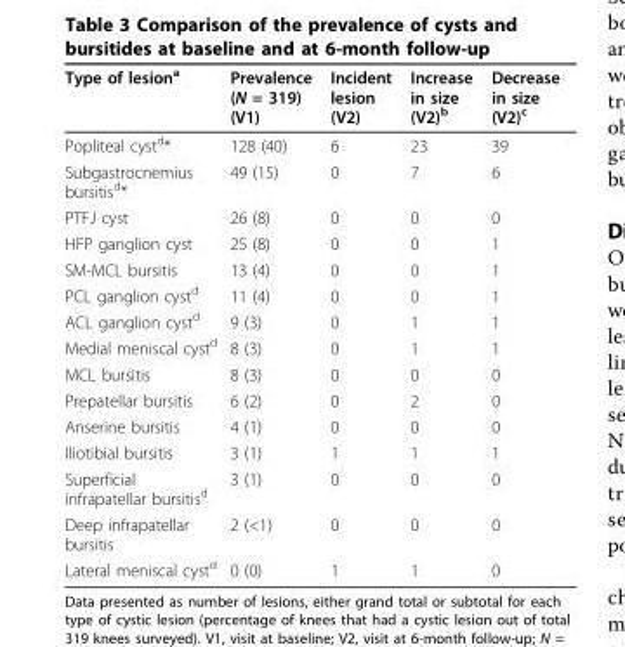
<table><thead><tr><td>Type of lesion<sup>a</sup></td><td>Prevalence (N = 319) (V1)</td><td>Incident lesion (V2)</td><td>Increase in size (V2)<sup>b</sup></td><td>Decrease in size (V2)<sup>c</sup></td></tr></thead><tbody><tr><td>Popliteal cyst<sup>d</sup>*</td><td>128 (40)</td><td>6</td><td>23</td><td>39</td></tr><tr><td>Subgastrocnemius bursitis<sup>d</sup>*</td><td>49 (15)</td><td>0</td><td>7</td><td>6</td></tr><tr><td>PTFJ cyst</td><td>26 (8)</td><td>0</td><td>0</td><td>0</td></tr><tr><td>HFP ganglion cyst</td><td>25 (8)</td><td>0</td><td>0</td><td>1</td></tr><tr><td>SM-MCL bursitis</td><td>13 (4)</td><td>0</td><td>0</td><td>1</td></tr><tr><td>PCL ganglion cyst<sup>d</sup></td><td>11 (4)</td><td>0</td><td>0</td><td>1</td></tr><tr><td>ACL ganglion cyst<sup>d</sup></td><td>9 (3)</td><td>0</td><td>1</td><td>1</td></tr><tr><td>Medial meniscal cyst<sup>d</sup></td><td>8 (3)</td><td>0</td><td>1</td><td>1</td></tr><tr><td>MCL bursitis</td><td>8 (3)</td><td>0</td><td>0</td><td>0</td></tr><tr><td>Prepatellar bursitis</td><td>6 (2)</td><td>0</td><td>2</td><td>0</td></tr><tr><td>Anserine bursitis</td><td>4 (1)</td><td>0</td><td>0</td><td>0</td></tr><tr><td>Iliotibial bursitis</td><td>3 (1)</td><td>1</td><td>1</td><td>1</td></tr><tr><td>Superficial infrapatellar bursitis<sup>d</sup></td><td>3 (1)</td><td>0</td><td>0</td><td>0</td></tr><tr><td>Deep infrapatellar bursitis</td><td>2 (&lt;1)</td><td>0</td><td>0</td><td>0</td></tr><tr><td>Lateral meniscal cyst<sup>d</sup></td><td>0 (0)</td><td>1</td><td>1</td><td>0</td></tr></tbody></table>